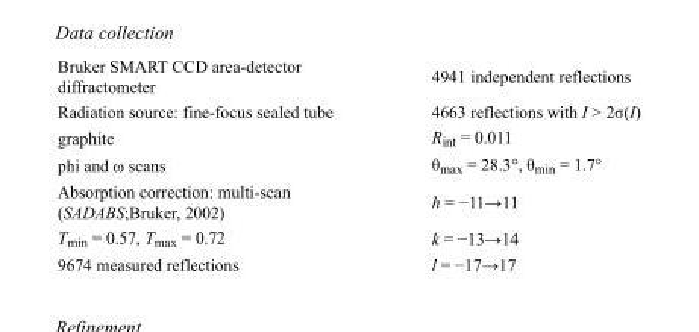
<table><tbody><tr><td>Bruker SMART CCD area-detector diffractometer</td><td>4941 independent reflections</td></tr><tr><td>Radiation source: fine-focus sealed tube</td><td>4663 reflections with I &gt; 2σ(I)</td></tr><tr><td>graphite</td><td>R<sub>int</sub> = 0.011</td></tr><tr><td>phi and ω scans</td><td>θ<sub>max</sub> = 28.3°, θ<sub>min</sub> = 1.7°</td></tr><tr><td>Absorption correction: multi-scan (SADABS;Bruker, 2002)</td><td>h = −11→11</td></tr><tr><td>T<sub>min</sub> = 0.57, T<sub>max</sub> = 0.72</td><td>k = −13→14</td></tr><tr><td>9674 measured reflections</td><td>l = −17→17</td></tr></tbody></table>